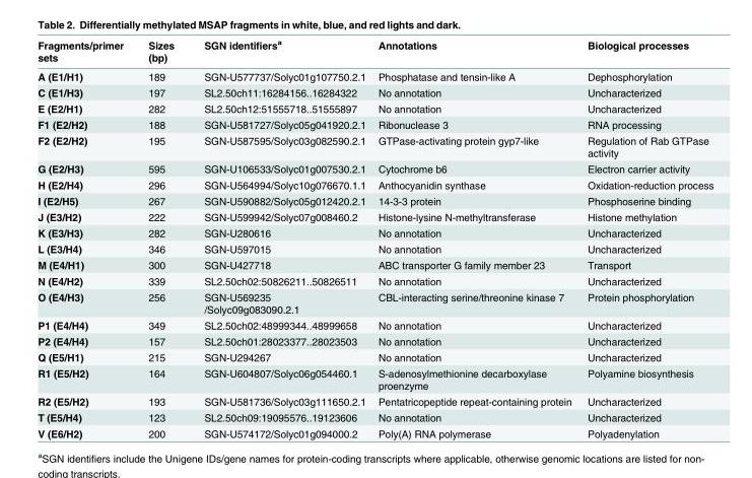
<table><thead><tr><td>Fragments/primer sets</td><td>Sizes (bp)</td><td>SGN identifiers<sup>a</sup></td><td>Annotations</td><td>Biological processes</td></tr></thead><tbody><tr><td>A (E1/H1)</td><td>189</td><td>SGN-U577737/Solyc01g107750.2.1</td><td>Phosphatase and tensin-like A</td><td>Dephosphorylation</td></tr><tr><td>C (E1/H3)</td><td>197</td><td>SL2.50ch11:16284156..16284322</td><td>No annotation</td><td>Uncharacterized</td></tr><tr><td>E (E2/H1)</td><td>282</td><td>SL2.50ch12:51555718..51555897</td><td>No annotation</td><td>Uncharacterized</td></tr><tr><td>F1 (E2/H2)</td><td>188</td><td>SGN-U581727/Solyc05g041920.2.1</td><td>Ribonuclease 3</td><td>RNA processing</td></tr><tr><td>F2 (E2/H2)</td><td>195</td><td>SGN-U587595/Solyc03g082590.2.1</td><td>GTPase-activating protein gyp7-like</td><td>Regulation of Rab GTPase activity</td></tr><tr><td>G (E2/H3)</td><td>595</td><td>SGN-U106533/Solyc01g007530.2.1</td><td>Cytochrome b6</td><td>Electron carrier activity</td></tr><tr><td>H (E2/H4)</td><td>296</td><td>SGN-U564994/Solyc10g076670.1.1</td><td>Anthocyanidin synthase</td><td>Oxidation-reduction process</td></tr><tr><td>I (E2/H5)</td><td>267</td><td>SGN-U590882/Solyc05g012420.2.1</td><td>14-3-3 protein</td><td>Phosphoserine binding</td></tr><tr><td>J (E3/H2)</td><td>222</td><td>SGN-U599942/Solyc07g008460.2</td><td>Histone-lysine N-methyltransferase</td><td>Histone methylation</td></tr><tr><td>K (E3/H3)</td><td>282</td><td>SGN-U280616</td><td>No annotation</td><td>Uncharacterized</td></tr><tr><td>L (E3/H4)</td><td>346</td><td>SGN-U597015</td><td>No annotation</td><td>Uncharacterized</td></tr><tr><td>M (E4/H1)</td><td>300</td><td>SGN-U427718</td><td>ABC transporter G family member 23</td><td>Transport</td></tr><tr><td>N (E4/H2)</td><td>339</td><td>SL2.50ch02:50826211..50826511</td><td>No annotation</td><td>Uncharacterized</td></tr><tr><td>O (E4/H3)</td><td>256</td><td>SGN-U569235 /Solyc09g083090.2.1</td><td>CBL-interacting serine/threonine kinase 7</td><td>Protein phosphorylation</td></tr><tr><td>P1 (E4/H4)</td><td>349</td><td>SL2.50ch02:48999344..48999658</td><td>No annotation</td><td>Uncharacterized</td></tr><tr><td>P2 (E4/H4)</td><td>157</td><td>SL2.50ch01:28023377..28023503</td><td>No annotation</td><td>Uncharacterized</td></tr><tr><td>Q (E5/H1)</td><td>215</td><td>SGN-U294267</td><td>No annotation</td><td>Uncharacterized</td></tr><tr><td>R1 (E5/H2)</td><td>164</td><td>SGN-U604807/Solyc06g054460.1</td><td>S-adenosylmethionine decarboxylase proenzyme</td><td>Polyamine biosynthesis</td></tr><tr><td>R2 (E5/H2)</td><td>193</td><td>SGN-U581736/Solyc03g111650.2.1</td><td>Pentatricopeptide repeat-containing protein</td><td>Uncharacterized</td></tr><tr><td>T (E5/H4)</td><td>123</td><td>SL2.50ch09:19095576..19123606</td><td>No annotation</td><td>Uncharacterized</td></tr><tr><td>V (E6/H2)</td><td>200</td><td>SGN-U574172/Solyc01g094000.2</td><td>Poly(A) RNA polymerase</td><td>Polyadenylation</td></tr></tbody></table>